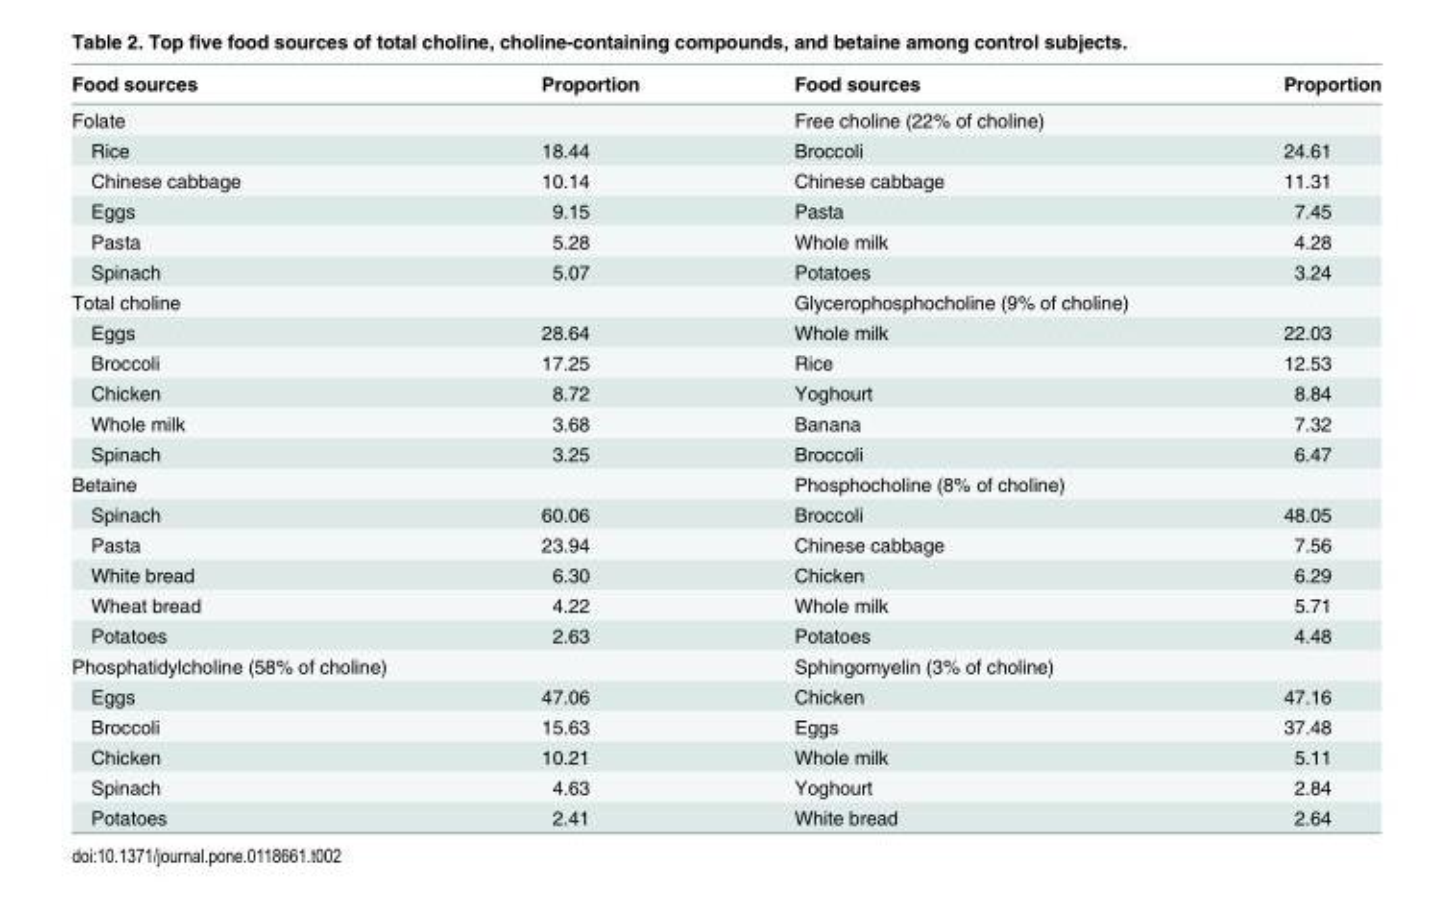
<table><thead><tr><td>Food sources</td><td>Proportion</td><td>Food sources</td><td>Proportion</td></tr></thead><tbody><tr><td>Folate</td><td></td><td>Free choline (22% of choline)</td><td></td></tr><tr><td>Rice</td><td>18.44</td><td>Broccoli</td><td>24.61</td></tr><tr><td>Chinese cabbage</td><td>10.14</td><td>Chinese cabbage</td><td>11.31</td></tr><tr><td>Eggs</td><td>9.15</td><td>Pasta</td><td>7.45</td></tr><tr><td>Pasta</td><td>5.28</td><td>Whole milk</td><td>4.28</td></tr><tr><td>Spinach</td><td>5.07</td><td>Potatoes</td><td>3.24</td></tr><tr><td>Total choline</td><td></td><td>Glycerophosphocholine (9% of choline)</td><td></td></tr><tr><td>Eggs</td><td>28.64</td><td>Whole milk</td><td>22.03</td></tr><tr><td>Broccoli</td><td>17.25</td><td>Rice</td><td>12.53</td></tr><tr><td>Chicken</td><td>8.72</td><td>Yoghourt</td><td>8.84</td></tr><tr><td>Whole milk</td><td>3.68</td><td>Banana</td><td>7.32</td></tr><tr><td>Spinach</td><td>3.25</td><td>Broccoli</td><td>6.47</td></tr><tr><td>Betaine</td><td></td><td>Phosphocholine (8% of choline)</td><td></td></tr><tr><td>Spinach</td><td>60.06</td><td>Broccoli</td><td>48.05</td></tr><tr><td>Pasta</td><td>23.94</td><td>Chinese cabbage</td><td>7.56</td></tr><tr><td>White bread</td><td>6.30</td><td>Chicken</td><td>6.29</td></tr><tr><td>Wheat bread</td><td>4.22</td><td>Whole milk</td><td>5.71</td></tr><tr><td>Potatoes</td><td>2.63</td><td>Potatoes</td><td>4.48</td></tr><tr><td>Phosphatidylcholine (58% of choline)</td><td></td><td>Sphingomyelin (3% of choline)</td><td></td></tr><tr><td>Eggs</td><td>47.06</td><td>Chicken</td><td>47.16</td></tr><tr><td>Broccoli</td><td>15.63</td><td>Eggs</td><td>37.48</td></tr><tr><td>Chicken</td><td>10.21</td><td>Whole milk</td><td>5.11</td></tr><tr><td>Spinach</td><td>4.63</td><td>Yoghourt</td><td>2.84</td></tr><tr><td>Potatoes</td><td>2.41</td><td>White bread</td><td>2.64</td></tr></tbody></table>